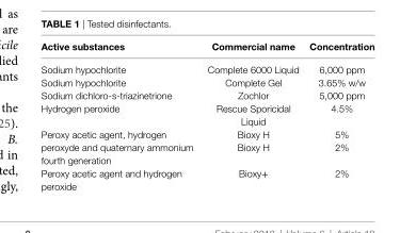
<table><thead><tr><td>active substances</td><td>commercial name</td><td>concentration</td></tr></thead><tbody><tr><td>Sodium hypochlorite</td><td>Complete 6000 Liquid</td><td>6,000 ppm</td></tr><tr><td>Sodium hypochlorite</td><td>Complete Gel</td><td>3.65% w/w</td></tr><tr><td>Sodium dichloro-s-triazinetrione</td><td>Zochlor</td><td>5,000 ppm</td></tr><tr><td>Hydrogen peroxide</td><td>Rescue Sporicidal Liquid</td><td>4.5%</td></tr><tr><td rowspan="2">Peroxy acetic agent, hydrogen peroxyde and quaternary ammonium fourth generation</td><td>Bioxy H</td><td>5%</td></tr><tr><td>Bioxy H</td><td>2%</td></tr><tr><td>Peroxy acetic agent and hydrogen peroxide</td><td>Bioxy+</td><td>2%</td></tr></tbody></table>